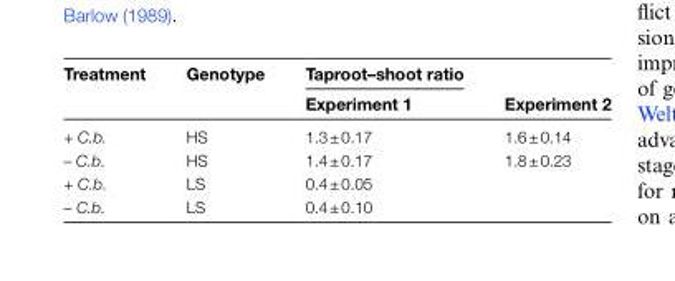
<table><thead><tr><td rowspan="2">Treatment</td><td rowspan="2">Genotype</td><td rowspan="2">Taproot–shoot ratio Experiment 1</td><td rowspan="2">Experiment 2</td></tr><tr></tr></thead><tbody><tr><td>+ C.b.</td><td>HS</td><td>1.3 ± 0.17</td><td>1.6 ± 0.14</td></tr><tr><td>– C.b.</td><td>HS</td><td>1.4 ± 0.17</td><td>1.8 ± 0.23</td></tr><tr><td>+ C.b.</td><td>LS</td><td>0.4 ± 0.05</td><td></td></tr><tr><td>– C.b.</td><td>LS</td><td>0.4 ± 0.10</td><td></td></tr></tbody></table>